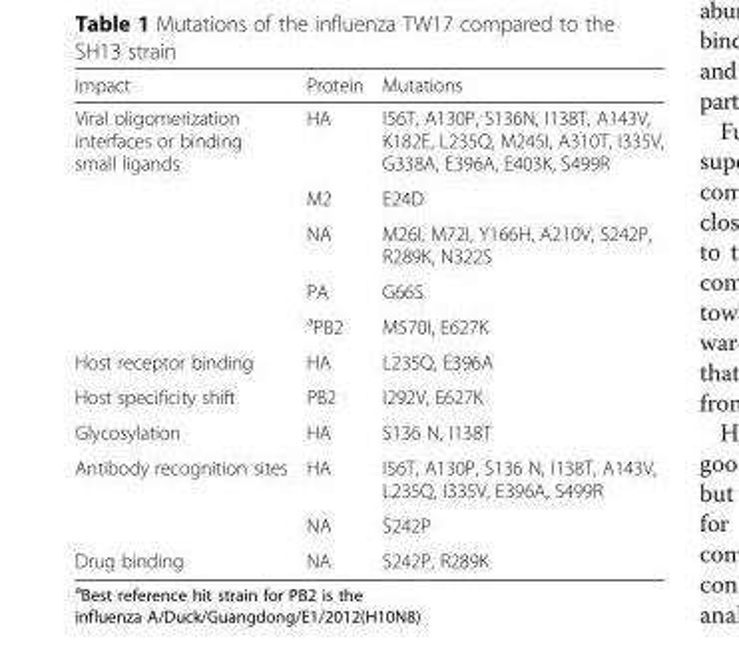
<table><thead><tr><td>Impact</td><td>Protein</td><td>Mutations</td></tr></thead><tbody><tr><td rowspan="5">Viral oligomerization interfaces or binding small ligands</td><td>HA</td><td>I56T, A130P, S136N, I138T, A143V, K182E, L235Q, M245I, A310T, I335V, G338A, E396A, E403K, S499R</td></tr><tr><td>M2</td><td>E24D</td></tr><tr><td>NA</td><td>M26I, M72I, Y166H, A210V, S242P, R289K, N322S</td></tr><tr><td>PA</td><td>G66S</td></tr><tr><td><sup>a</sup>PB2</td><td>M570I, E627K</td></tr><tr><td>Host receptor binding</td><td>HA</td><td>L235Q, E396A</td></tr><tr><td>Host specificity shift</td><td>PB2</td><td>I292V, E627K</td></tr><tr><td>Glycosylation</td><td>HA</td><td>S136 N, I138T</td></tr><tr><td rowspan="2">Antibody recognition sites</td><td>HA</td><td>I56T, A130P, S136 N, I138T, A143V, L235Q, I335V, E396A, S499R</td></tr><tr><td>NA</td><td>S242P</td></tr><tr><td>Drug binding</td><td>NA</td><td>S242P, R289K</td></tr></tbody></table>